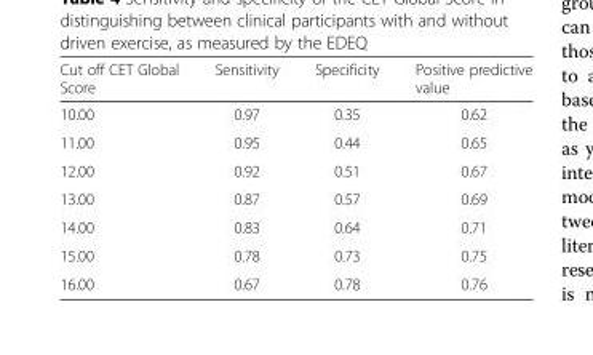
<table><thead><tr><td>Cut off CET Global Score</td><td>Sensitivity</td><td>Specificity</td><td>Positive predictive value</td></tr></thead><tbody><tr><td>10.00</td><td>0.97</td><td>0.35</td><td>0.62</td></tr><tr><td>11.00</td><td>0.95</td><td>0.44</td><td>0.65</td></tr><tr><td>12.00</td><td>0.92</td><td>0.51</td><td>0.67</td></tr><tr><td>13.00</td><td>0.87</td><td>0.57</td><td>0.69</td></tr><tr><td>14.00</td><td>0.83</td><td>0.64</td><td>0.71</td></tr><tr><td>15.00</td><td>0.78</td><td>0.73</td><td>0.75</td></tr><tr><td>16.00</td><td>0.67</td><td>0.78</td><td>0.76</td></tr></tbody></table>